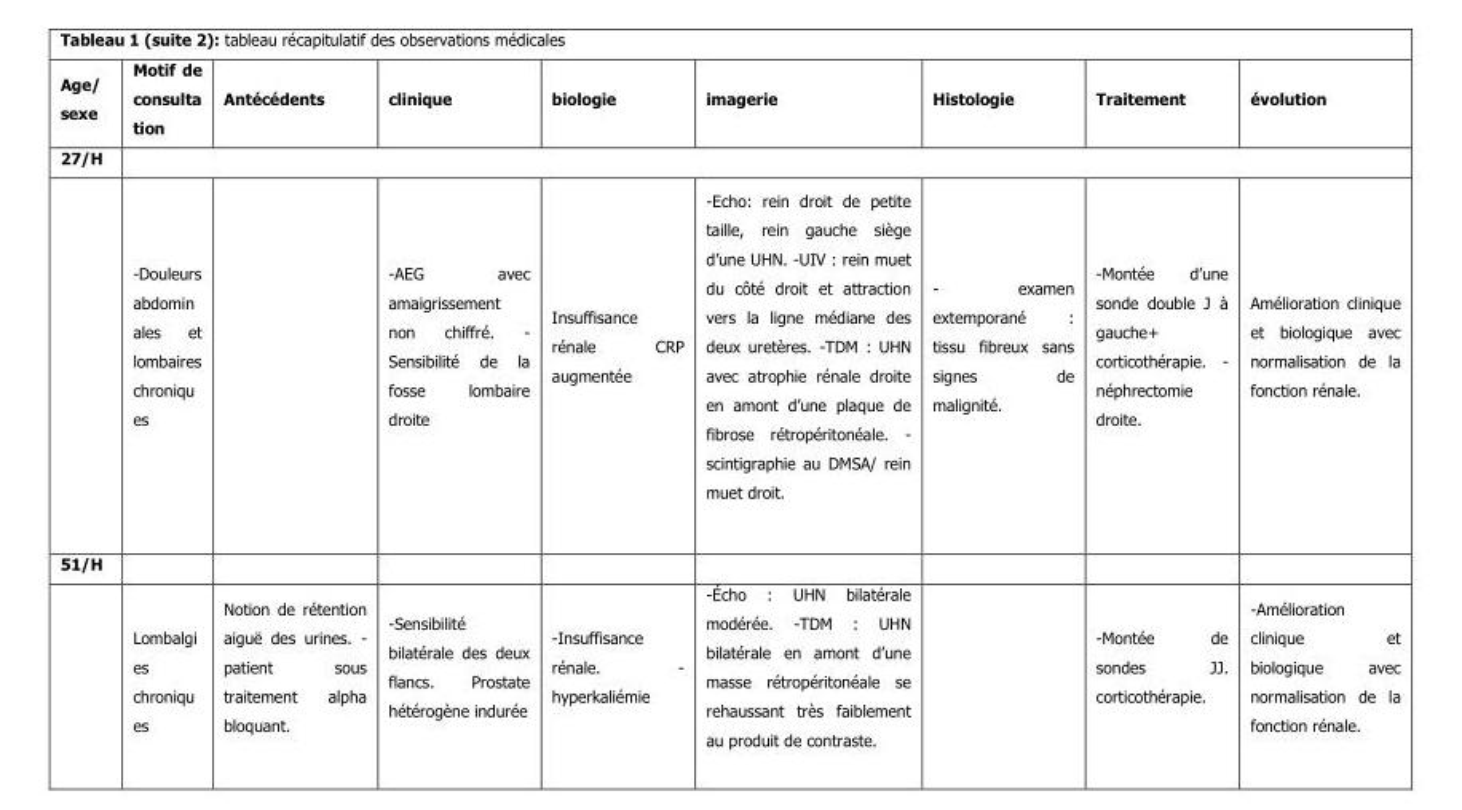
<table><thead><tr><td>Age/ sexe</td><td>Motif de consulta tion</td><td>Antécédents</td><td>clinique</td><td>biologie</td><td>imagerie</td><td>Histologie</td><td>Traitement</td><td>évolution</td></tr></thead><tbody><tr><td colspan="9">27/H</td></tr><tr><td></td><td>-Douleurs abdomin ales et lombaires chroniqu es</td><td></td><td>-AEG avec amaigrissement non chiffré. - Sensibilité de la fosse lombaire droite</td><td>Insuffisance rénale CRP augmentée</td><td>-Echo: rein droit de petite taille, rein gauche siège d’une UHN. -UIV : rein muet du côté droit et attraction vers la ligne médiane des deux uretères. -TDM : UHN avec atrophie rénale droite en amont d’une plaque de fibrose rétropéritonéale. - scintigraphie au DMSA/ rein muet droit.</td><td>- examen extemporané : tissu fibreux sans signes de malignité.</td><td>-Montée d’une sonde double J à gauche+ corticothérapie. - néphrectomie droite.</td><td>Amélioration clinique et biologique avec normalisation de la fonction rénale.</td></tr><tr><td colspan="9">51/H</td></tr><tr><td></td><td>Lombalgi es chroniqu es</td><td>Notion de rétention aiguë des urines. - patient sous traitement alpha bloquant.</td><td>-Sensibilité bilatérale des deux flancs. Prostate hétérogène indurée</td><td>-Insuffisance rénale. - hyperkaliémie</td><td>-Écho : UHN bilatérale modérée. -TDM : UHN bilatérale en amont d’une masse rétropéritonéale se rehaussant très faiblement au produit de contraste.</td><td></td><td>-Montée de sondes JJ. corticothérapie.</td><td>-Amélioration clinique et biologique avec normalisation de la fonction rénale.</td></tr></tbody></table>